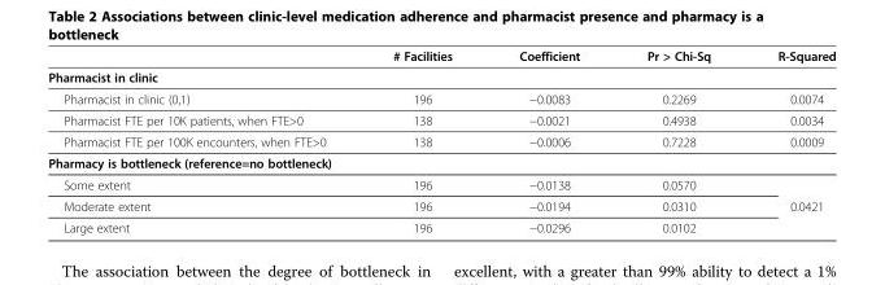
<table><thead><tr><td></td><td># Facilities</td><td>Coefficient</td><td>Pr &gt; Chi-Sq</td><td>R-Squared</td></tr></thead><tbody><tr><td colspan="5">Pharmacist in clinic</td></tr><tr><td>Pharmacist in clinic (0,1)</td><td>196</td><td>−0.0083</td><td>0.2269</td><td>0.0074</td></tr><tr><td>Pharmacist FTE per 10K patients, when FTE&gt;0</td><td>138</td><td>−0.0021</td><td>0.4938</td><td>0.0034</td></tr><tr><td>Pharmacist FTE per 100K encounters, when FTE&gt;0</td><td>138</td><td>−0.0006</td><td>0.7228</td><td>0.0009</td></tr><tr><td colspan="5">Pharmacy is bottleneck (reference=no bottleneck)</td></tr><tr><td>Some extent</td><td>196</td><td>−0.0138</td><td>0.0570</td><td></td></tr><tr><td>Moderate extent</td><td>196</td><td>−0.0194</td><td>0.0310</td><td>0.0421</td></tr><tr><td>Large extent</td><td>196</td><td>−0.0296</td><td>0.0102</td><td></td></tr></tbody></table>